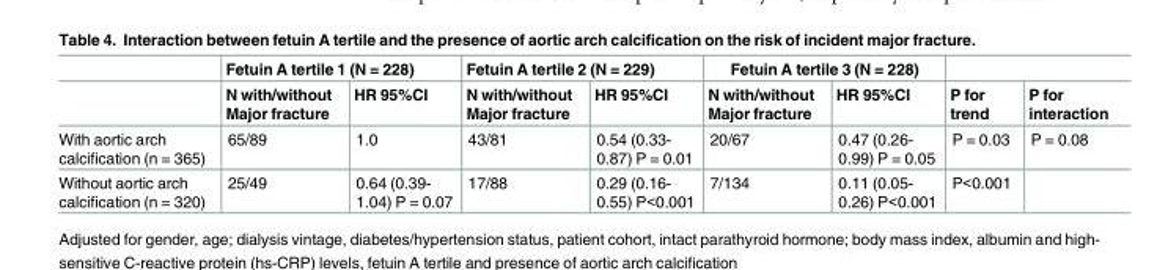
<table><thead><tr><td rowspan="2"></td><td colspan="2">Fetuin A tertile 1 (N = 228)</td><td colspan="2">Fetuin A tertile 2 (N = 229)</td><td colspan="2">Fetuin A tertile 3 (N = 228)</td><td rowspan="2">P for trend</td><td rowspan="2">P for interaction</td></tr><tr><td>N with/without Major fracture</td><td>HR 95%CI</td><td>N with/without Major fracture</td><td>HR 95%CI</td><td>N with/without Major fracture</td><td>HR 95%CI</td></tr></thead><tbody><tr><td>With aortic arch calcification (n = 365)</td><td>65/89</td><td>1.0</td><td>43/81</td><td>0.54 (0.33- 0.87) P = 0.01</td><td>20/67</td><td>0.47 (0.26- 0.99) P = 0.05</td><td>P = 0.03</td><td>P = 0.08</td></tr><tr><td>Without aortic arch calcification (n = 320)</td><td>25/49</td><td>0.64 (0.39- 1.04) P = 0.07</td><td>17/88</td><td>0.29 (0.16- 0.55) P&lt;0.001</td><td>7/134</td><td>0.11 (0.05- 0.26) P&lt;0.001</td><td>P&lt;0.001</td><td></td></tr></tbody></table>